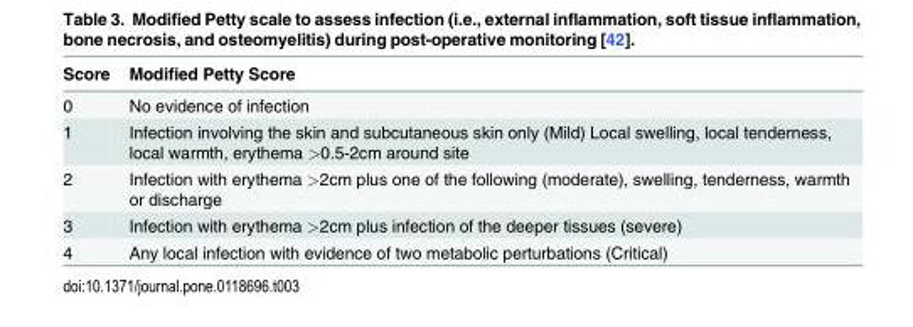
<table><thead><tr><td>Score</td><td>Modified Petty Score</td></tr></thead><tbody><tr><td>0</td><td>No evidence of infection</td></tr><tr><td>1</td><td>Infection involving the skin and subcutaneous skin only (Mild) Local swelling, local tenderness, local warmth, erythema &gt;0.5-2cm around site</td></tr><tr><td>2</td><td>Infection with erythema &gt;2cm plus one of the following (moderate), swelling, tenderness, warmth or discharge</td></tr><tr><td>3</td><td>Infection with erythema &gt;2cm plus infection of the deeper tissues (severe)</td></tr><tr><td>4</td><td>Any local infection with evidence of two metabolic perturbations (Critical)</td></tr></tbody></table>